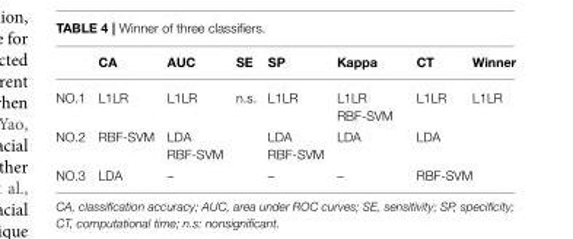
<table><thead><tr><td></td><td>CA</td><td>AUC</td><td>SE</td><td>SP</td><td>Kappa</td><td>CT</td><td>Winner</td></tr></thead><tbody><tr><td>NO.1</td><td>L1LR</td><td>L1LR</td><td>n.s.</td><td>L1LR</td><td>L1LR RBF-SVM</td><td>L1LR</td><td>L1LR</td></tr><tr><td>NO.2</td><td>RBF-SVM</td><td>LDA RBF-SVM</td><td></td><td>LDA RBF-SVM</td><td>LDA</td><td>LDA</td><td></td></tr><tr><td>NO.3</td><td>LDA</td><td>–</td><td></td><td>–</td><td>–</td><td>RBF-SVM</td><td></td></tr></tbody></table>